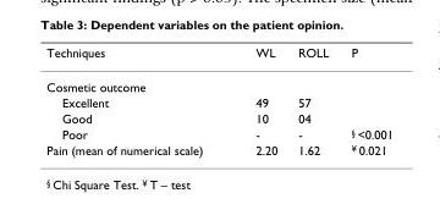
<table><thead><tr><td>Techniques</td><td>WL</td><td>ROLL</td><td>P</td></tr></thead><tbody><tr><td colspan="4">Cosmetic outcome</td></tr><tr><td>Excellent</td><td>49</td><td>57</td><td></td></tr><tr><td>Good</td><td>10</td><td>04</td><td></td></tr><tr><td>Poor</td><td>-</td><td>-</td><td><sup>§</sup> &lt;0.001</td></tr><tr><td>Pain (mean of numerical scale)</td><td>2.20</td><td>1.62</td><td><sup>¥</sup> 0.021</td></tr></tbody></table>